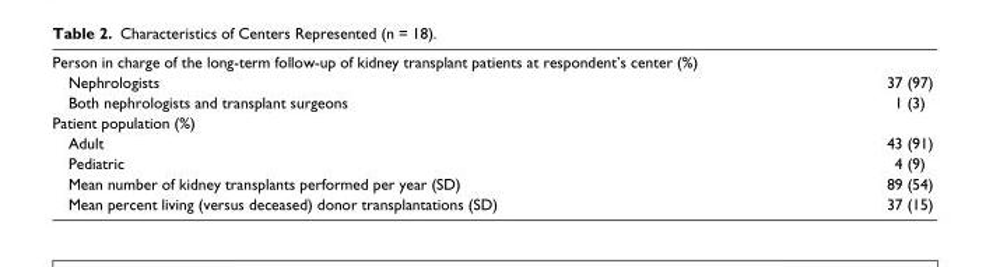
<table><tbody><tr><td colspan="2">Person in charge of the long-term follow-up of kidney transplant patients at respondent’s center (%)</td></tr><tr><td>Nephrologists</td><td>37 (97)</td></tr><tr><td>Both nephrologists and transplant surgeons</td><td>1 (3)</td></tr><tr><td colspan="2">Patient population (%)</td></tr><tr><td>Adult</td><td>43 (91)</td></tr><tr><td>Pediatric</td><td>4 (9)</td></tr><tr><td>Mean number of kidney transplants performed per year (SD)</td><td>89 (54)</td></tr><tr><td>Mean percent living (versus deceased) donor transplantations (SD)</td><td>37 (15)</td></tr></tbody></table>